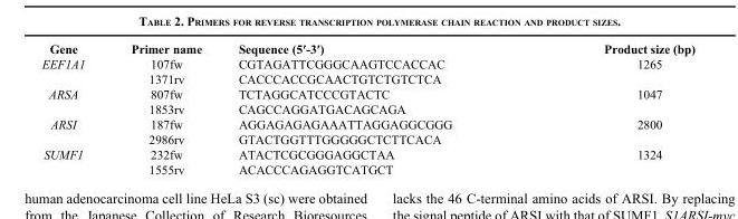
<table><thead><tr><td>Gene</td><td>Primer name</td><td>Sequence (5′-3′)</td><td>Product size (bp)</td></tr></thead><tbody><tr><td rowspan="2">EEF1A1</td><td>107fw</td><td>CGTAGATTCGGGCAAGTCCACCAC</td><td rowspan="2">1265</td></tr><tr><td>1371rv</td><td>CACCCACCGCAACTGTCTGTCTCA</td></tr><tr><td rowspan="2">ARSA</td><td>807fw</td><td>TCTAGGCATCCCGTACTC</td><td rowspan="2">1047</td></tr><tr><td>1853rv</td><td>CAGCCAGGATGACAGCAGA</td></tr><tr><td rowspan="2">ARSI</td><td>187fw</td><td>AGGAGAGAGAAATTAGGAGGCGGG</td><td rowspan="2">2800</td></tr><tr><td>2986rv</td><td>GTACTGGTTTGGGGGCTCTTCACA</td></tr><tr><td rowspan="2">SUMF1</td><td>232fw</td><td>ATACTCGCGGGAGGCTAA</td><td rowspan="2">1324</td></tr><tr><td>1555rv</td><td>ACACCCAGAGGTCATGCT</td></tr></tbody></table>